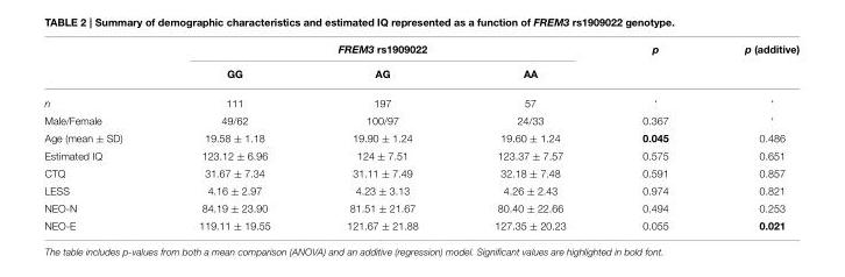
<table><thead><tr><td rowspan="2"></td><td colspan="3">FREM3 rs1909022</td><td rowspan="2">p</td><td rowspan="2">p (additive)</td></tr><tr><td>GG</td><td>AG</td><td>AA</td></tr></thead><tbody><tr><td>n</td><td>111</td><td>197</td><td>57</td><td>‘</td><td>‘</td></tr><tr><td>Male/Female</td><td>49/62</td><td>100/97</td><td>24/33</td><td>0.367</td><td>‘</td></tr><tr><td>Age (mean ± SD)</td><td>19.58 ± 1.18</td><td>19.90 ± 1.24</td><td>19.60 ± 1.24</td><td>0.045</td><td>0.486</td></tr><tr><td>Estimated IQ</td><td>123.12 ± 6.96</td><td>124 ± 7.51</td><td>123.37 ± 7.57</td><td>0.575</td><td>0.651</td></tr><tr><td>CTQ</td><td>31.67 ± 7.34</td><td>31.11 ± 7.49</td><td>32.18 ± 7.48</td><td>0.591</td><td>0.857</td></tr><tr><td>LESS</td><td>4.16 ± 2.97</td><td>4.23 ± 3.13</td><td>4.26 ± 2.43</td><td>0.974</td><td>0.821</td></tr><tr><td>NEO-N</td><td>84.19 ± 23.90</td><td>81.51 ± 21.67</td><td>80.40 ± 22.66</td><td>0.494</td><td>0.253</td></tr><tr><td>NEO-E</td><td>119.11 ± 19.55</td><td>121.67 ± 21.88</td><td>127.35 ± 20.23</td><td>0.055</td><td>0.021</td></tr></tbody></table>